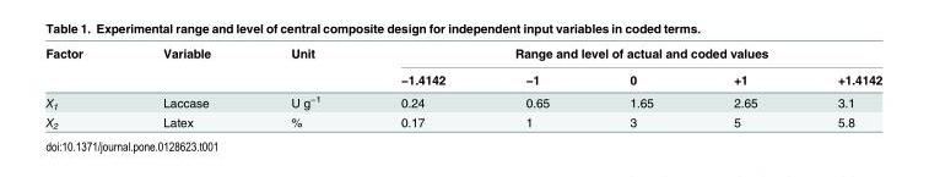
<table><thead><tr><td rowspan="2">Factor</td><td rowspan="2">Variable</td><td rowspan="2">Unit</td><td colspan="5">Range and level of actual and coded values</td></tr><tr><td>−1.4142</td><td>−1</td><td>0</td><td>+1</td><td>+1.4142</td></tr></thead><tbody><tr><td>X<sub>1</sub></td><td>Laccase</td><td>U g<sup>−1</sup></td><td>0.24</td><td>0.65</td><td>1.65</td><td>2.65</td><td>3.1</td></tr><tr><td>X<sub>2</sub></td><td>Latex</td><td>%</td><td>0.17</td><td>1</td><td>3</td><td>5</td><td>5.8</td></tr></tbody></table>